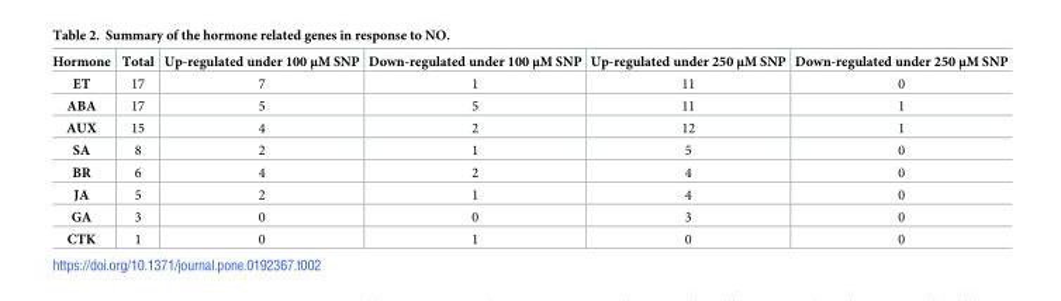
<table><thead><tr><td>Hormone</td><td>Total</td><td>Up-regulated under 100 μM SNP</td><td>Down-regulated under 100 μM SNP</td><td>Up-regulated under 250 μM SNP</td><td>Down-regulated under 250 μM SNP</td></tr></thead><tbody><tr><td>ET</td><td>17</td><td>7</td><td>1</td><td>11</td><td>0</td></tr><tr><td>ABA</td><td>17</td><td>5</td><td>5</td><td>11</td><td>1</td></tr><tr><td>AUX</td><td>15</td><td>4</td><td>2</td><td>12</td><td>1</td></tr><tr><td>SA</td><td>8</td><td>2</td><td>1</td><td>5</td><td>0</td></tr><tr><td>BR</td><td>6</td><td>4</td><td>2</td><td>4</td><td>0</td></tr><tr><td>JA</td><td>5</td><td>2</td><td>1</td><td>4</td><td>0</td></tr><tr><td>GA</td><td>3</td><td>0</td><td>0</td><td>3</td><td>0</td></tr><tr><td>CTK</td><td>1</td><td>0</td><td>1</td><td>0</td><td>0</td></tr></tbody></table>